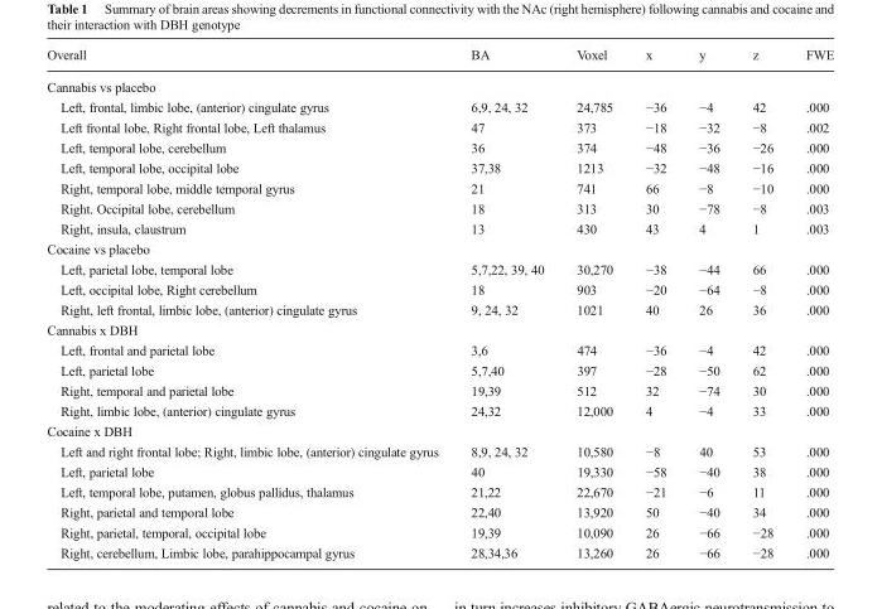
<table><thead><tr><td>Overall</td><td>BA</td><td>Voxel</td><td>x</td><td>y</td><td>z</td><td>FWE</td></tr></thead><tbody><tr><td colspan="7">Cannabis vs placebo</td></tr><tr><td>Left, frontal, limbic lobe, (anterior) cingulate gyrus</td><td>6,9, 24, 32</td><td>24,785</td><td>−36</td><td>−4</td><td>42</td><td>.000</td></tr><tr><td>Left frontal lobe, Right frontal lobe, Left thalamus</td><td>47</td><td>373</td><td>−18</td><td>−32</td><td>−8</td><td>.002</td></tr><tr><td>Left, temporal lobe, cerebellum</td><td>36</td><td>374</td><td>−48</td><td>−36</td><td>−26</td><td>.000</td></tr><tr><td>Left, temporal lobe, occipital lobe</td><td>37,38</td><td>1213</td><td>−32</td><td>−48</td><td>−16</td><td>.000</td></tr><tr><td>Right, temporal lobe, middle temporal gyrus</td><td>21</td><td>741</td><td>66</td><td>−8</td><td>−10</td><td>.000</td></tr><tr><td>Right. Occipital lobe, cerebellum</td><td>18</td><td>313</td><td>30</td><td>−78</td><td>−8</td><td>.003</td></tr><tr><td>Right, insula, claustrum</td><td>13</td><td>430</td><td>43</td><td>4</td><td>1</td><td>.003</td></tr><tr><td colspan="7">Cocaine vs placebo</td></tr><tr><td>Left, parietal lobe, temporal lobe</td><td>5,7,22, 39, 40</td><td>30,270</td><td>−38</td><td>−44</td><td>66</td><td>.000</td></tr><tr><td>Left, occipital lobe, Right cerebellum</td><td>18</td><td>903</td><td>−20</td><td>−64</td><td>−8</td><td>.000</td></tr><tr><td>Right, left frontal, limbic lobe, (anterior) cingulate gyrus</td><td>9, 24, 32</td><td>1021</td><td>40</td><td>26</td><td>36</td><td>.000</td></tr><tr><td colspan="7">Cannabis x DBH</td></tr><tr><td>Left, frontal and parietal lobe</td><td>3,6</td><td>474</td><td>−36</td><td>−4</td><td>42</td><td>.000</td></tr><tr><td>Left, parietal lobe</td><td>5,7,40</td><td>397</td><td>−28</td><td>−50</td><td>62</td><td>.000</td></tr><tr><td>Right, temporal and parietal lobe</td><td>19,39</td><td>512</td><td>32</td><td>−74</td><td>30</td><td>.000</td></tr><tr><td>Right, limbic lobe, (anterior) cingulate gyrus</td><td>24,32</td><td>12,000</td><td>4</td><td>−4</td><td>33</td><td>.000</td></tr><tr><td colspan="7">Cocaine x DBH</td></tr><tr><td>Left and right frontal lobe; Right, limbic lobe, (anterior) cingulate gyrus</td><td>8,9, 24, 32</td><td>10,580</td><td>−8</td><td>40</td><td>53</td><td>.000</td></tr><tr><td>Left, parietal lobe</td><td>40</td><td>19,330</td><td>−58</td><td>−40</td><td>38</td><td>.000</td></tr><tr><td>Left, temporal lobe, putamen, globus pallidus, thalamus</td><td>21,22</td><td>22,670</td><td>−21</td><td>−6</td><td>11</td><td>.000</td></tr><tr><td>Right, parietal and temporal lobe</td><td>22,40</td><td>13,920</td><td>50</td><td>−40</td><td>34</td><td>.000</td></tr><tr><td>Right, parietal, temporal, occipital lobe</td><td>19,39</td><td>10,090</td><td>26</td><td>−66</td><td>−28</td><td>.000</td></tr><tr><td>Right, cerebellum, Limbic lobe, parahippocampal gyrus</td><td>28,34,36</td><td>13,260</td><td>26</td><td>−66</td><td>−28</td><td>.000</td></tr></tbody></table>